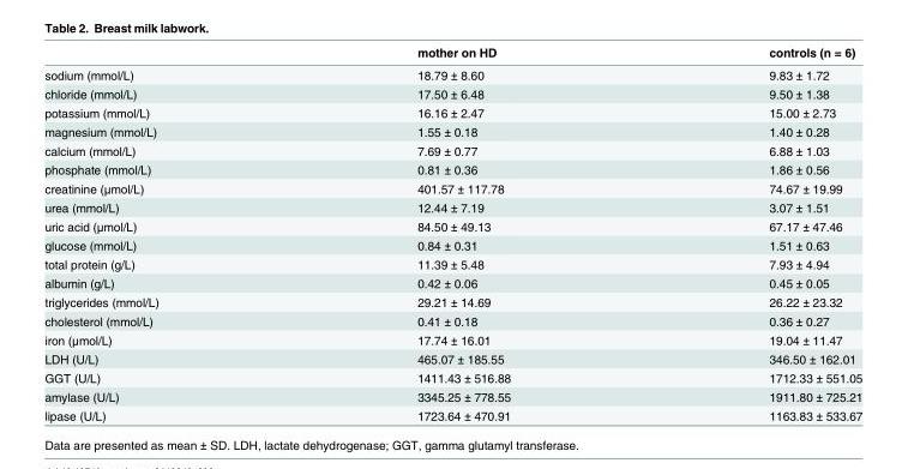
<table><thead><tr><td></td><td>mother on HD</td><td>controls (n = 6)</td></tr></thead><tbody><tr><td>sodium (mmol/L)</td><td>18.79 ± 8.60</td><td>9.83 ± 1.72</td></tr><tr><td>chloride (mmol/L)</td><td>17.50 ± 6.48</td><td>9.50 ± 1.38</td></tr><tr><td>potassium (mmol/L)</td><td>16.16 ± 2.47</td><td>15.00 ± 2.73</td></tr><tr><td>magnesium (mmol/L)</td><td>1.55 ± 0.18</td><td>1.40 ± 0.28</td></tr><tr><td>calcium (mmol/L)</td><td>7.69 ± 0.77</td><td>6.88 ± 1.03</td></tr><tr><td>phosphate (mmol/L)</td><td>0.81 ± 0.36</td><td>1.86 ± 0.56</td></tr><tr><td>creatinine (μmol/L)</td><td>401.57 ± 117.78</td><td>74.67 ± 19.99</td></tr><tr><td>urea (mmol/L)</td><td>12.44 ± 7.19</td><td>3.07 ± 1.51</td></tr><tr><td>uric acid (μmol/L)</td><td>84.50 ± 49.13</td><td>67.17 ± 47.46</td></tr><tr><td>glucose (mmol/L)</td><td>0.84 ± 0.31</td><td>1.51 ± 0.63</td></tr><tr><td>total protein (g/L)</td><td>11.39 ± 5.48</td><td>7.93 ± 4.94</td></tr><tr><td>albumin (g/L)</td><td>0.42 ± 0.06</td><td>0.45 ± 0.05</td></tr><tr><td>triglycerides (mmol/L)</td><td>29.21 ± 14.69</td><td>26.22 ± 23.32</td></tr><tr><td>cholesterol (mmol/L)</td><td>0.41 ± 0.18</td><td>0.36 ± 0.27</td></tr><tr><td>iron (μmol/L)</td><td>17.74 ± 16.01</td><td>19.04 ± 11.47</td></tr><tr><td>LDH (U/L)</td><td>465.07 ± 185.55</td><td>346.50 ± 162.01</td></tr><tr><td>GGT (U/L)</td><td>1411.43 ± 516.88</td><td>1712.33 ± 551.05</td></tr><tr><td>amylase (U/L)</td><td>3345.25 ± 778.55</td><td>1911.80 ± 725.21</td></tr><tr><td>lipase (U/L)</td><td>1723.64 ± 470.91</td><td>1163.83 ± 533.67</td></tr></tbody></table>